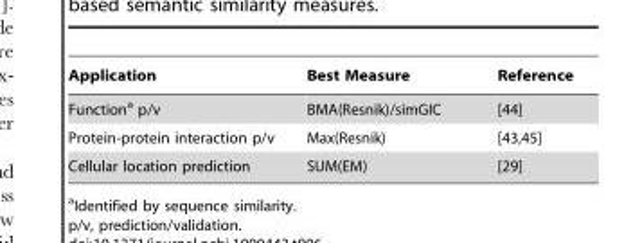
<table><thead><tr><td>Application</td><td>Best Measure</td><td>Reference</td></tr></thead><tbody><tr><td>Function<sup>a</sup> p/v</td><td>BMA(Resnik)/simGIC</td><td>[44]</td></tr><tr><td>Protein-protein interaction p/v</td><td>Max(Resnik)</td><td>[43,45]</td></tr><tr><td>Cellular location prediction</td><td>SUM(EM)</td><td>[29]</td></tr></tbody></table>